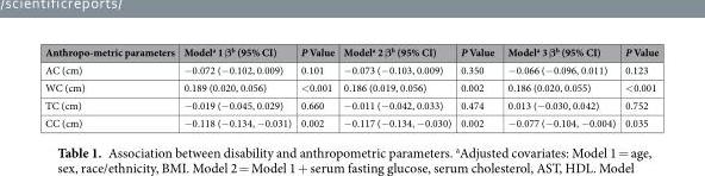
<table><thead><tr><td>Anthropo-metric parameters</td><td>Model<sup>a</sup> 1 β<sup>b</sup> (95% CI)</td><td>P Value</td><td>Model<sup>a</sup> 2 β<sup>b</sup> (95% CI)</td><td>P Value</td><td>Model<sup>a</sup> 3 β<sup>b</sup> (95% CI)</td><td>P Value</td></tr></thead><tbody><tr><td>AC (cm)</td><td>−0.072 (−0.102, 0.009)</td><td>0.101</td><td>−0.073 (−0.103, 0.009)</td><td>0.350</td><td>−0.066 (−0.096, 0.011)</td><td>0.123</td></tr><tr><td>WC (cm)</td><td>0.189 (0.020, 0.056)</td><td>&lt;0.001</td><td>0.186 (0.019, 0.056)</td><td>0.002</td><td>0.186 (0.020, 0.055)</td><td>&lt;0.001</td></tr><tr><td>TC (cm)</td><td>−0.019 (−0.045, 0.029)</td><td>0.660</td><td>−0.011 (−0.042, 0.033)</td><td>0.474</td><td>0.013 (−0.030, 0.042)</td><td>0.752</td></tr><tr><td>CC (cm)</td><td>−0.118 (−0.134, −0.031)</td><td>0.002</td><td>−0.117 (−0.134, −0.030)</td><td>0.002</td><td>−0.077 (−0.104, −0.004)</td><td>0.035</td></tr></tbody></table>